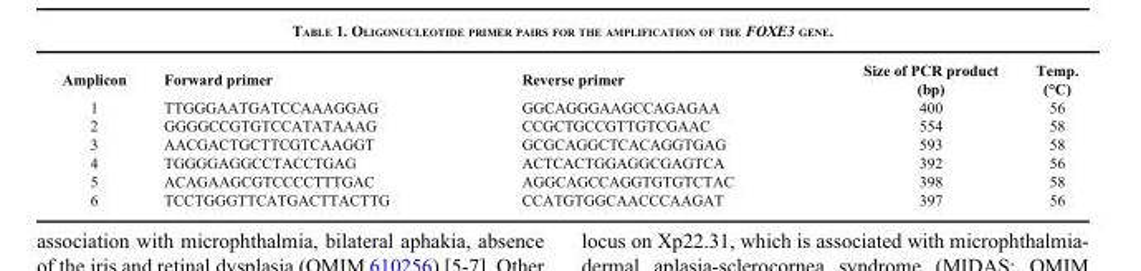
<table><thead><tr><td>Amplicon</td><td>Forward primer</td><td>Reverse primer</td><td>Size of PCR product (bp)</td><td>Temp. (°C)</td></tr></thead><tbody><tr><td>1</td><td>TTGGGAATGATCCAAAGGAG</td><td>GGCAGGGAAGCCAGAGAA</td><td>400</td><td>56</td></tr><tr><td>2</td><td>GGGGCCGTGTCCATATAAAG</td><td>CCGCTGCCGTTGTCGAAC</td><td>554</td><td>58</td></tr><tr><td>3</td><td>AACGACTGCTTCGTCAAGGT</td><td>GCGCAGGCTCACAGGTGAG</td><td>593</td><td>58</td></tr><tr><td>4</td><td>TGGGGAGGCCTACCTGAG</td><td>ACTCACTGGAGGCGAGTCA</td><td>392</td><td>56</td></tr><tr><td>5</td><td>ACAGAAGCGTCCCCTTTGAC</td><td>AGGCAGCCAGGTGTGTCTAC</td><td>398</td><td>58</td></tr><tr><td>6</td><td>TCCTGGGTTCATGACTTACTTG</td><td>CCATGTGGCAACCCAAGAT</td><td>397</td><td>56</td></tr></tbody></table>